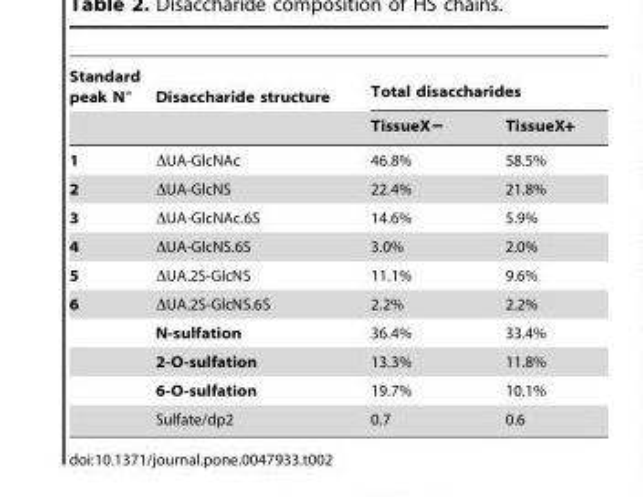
<table><thead><tr><td rowspan="2">Standard peak N°</td><td rowspan="2">Disaccharide structure</td><td colspan="2">Total disaccharides</td></tr><tr><td>TissueX−</td><td>TissueX+</td></tr></thead><tbody><tr><td>1</td><td>ΔUA-GlcNAc</td><td>46.8%</td><td>58.5%</td></tr><tr><td>2</td><td>ΔUA-GlcNS</td><td>22.4%</td><td>21.8%</td></tr><tr><td>3</td><td>ΔUA-GlcNAc.6S</td><td>14.6%</td><td>5.9%</td></tr><tr><td>4</td><td>ΔUA-GlcNS.6S</td><td>3.0%</td><td>2.0%</td></tr><tr><td>5</td><td>ΔUA.2S-GlcNS</td><td>11.1%</td><td>9.6%</td></tr><tr><td rowspan="5">6</td><td>ΔUA.2S-GlcNS.6S</td><td>2.2%</td><td>2.2%</td></tr><tr><td>N-sulfation</td><td>36.4%</td><td>33.4%</td></tr><tr><td>2-O-sulfation</td><td>13.3%</td><td>11.8%</td></tr><tr><td>6-O-sulfation</td><td>19.7%</td><td>10.1%</td></tr><tr><td>Sulfate/dp2</td><td>0.7</td><td>0.6</td></tr></tbody></table>